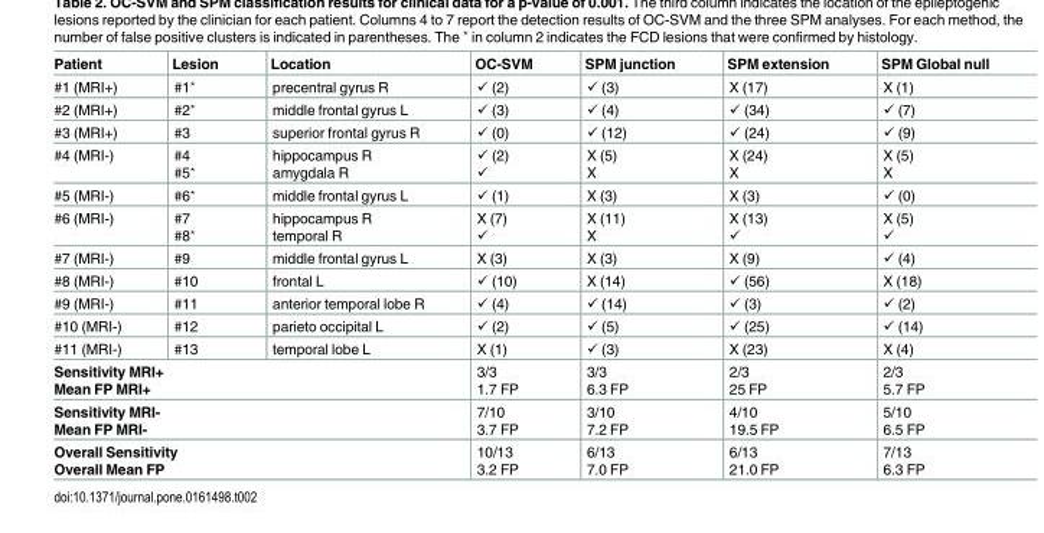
<table><thead><tr><td>Patient</td><td>Lesion</td><td>Location</td><td>OC-SVM</td><td>SPM junction</td><td>SPM extension</td><td>SPM Global null</td></tr></thead><tbody><tr><td>#1 (MRI+)</td><td>#1<sup>⋆</sup></td><td>precentral gyrus R</td><td>✓ (2)</td><td>✓ (3)</td><td>X (17)</td><td>X (1)</td></tr><tr><td>#2 (MRI+)</td><td>#2<sup>⋆</sup></td><td>middle frontal gyrus L</td><td>✓ (3)</td><td>✓ (4)</td><td>✓ (34)</td><td>✓ (7)</td></tr><tr><td>#3 (MRI+)</td><td>#3</td><td>superior frontal gyrus R</td><td>✓ (0)</td><td>✓ (12)</td><td>✓ (24)</td><td>✓ (9)</td></tr><tr><td>#4 (MRI-)</td><td>#4 #5<sup>⋆</sup></td><td>hippocampus R amygdala R</td><td>✓ (2) ✓</td><td>X (5) X</td><td>X (24) X</td><td>X (5) X</td></tr><tr><td>#5 (MRI-)</td><td>#6<sup>⋆</sup></td><td>middle frontal gyrus L</td><td>✓ (1)</td><td>X (3)</td><td>X (3)</td><td>✓ (0)</td></tr><tr><td>#6 (MRI-)</td><td>#7 #8<sup>⋆</sup></td><td>hippocampus R temporal R</td><td>X (7) ✓</td><td>X (11) X</td><td>X (13) ✓</td><td>X (5) ✓</td></tr><tr><td>#7 (MRI-)</td><td>#9</td><td>middle frontal gyrus L</td><td>X (3)</td><td>X (3)</td><td>X (9)</td><td>✓ (4)</td></tr><tr><td>#8 (MRI-)</td><td>#10</td><td>frontal L</td><td>✓ (10)</td><td>X (14)</td><td>✓ (56)</td><td>X (18)</td></tr><tr><td>#9 (MRI-)</td><td>#11</td><td>anterior temporal lobe R</td><td>✓ (4)</td><td>✓ (14)</td><td>✓ (3)</td><td>✓ (2)</td></tr><tr><td>#10 (MRI-)</td><td>#12</td><td>parieto occipital L</td><td>✓ (2)</td><td>✓ (5)</td><td>✓ (25)</td><td>✓ (14)</td></tr><tr><td>#11 (MRI-)</td><td>#13</td><td>temporal lobe L</td><td>X (1)</td><td>✓ (3)</td><td>X (23)</td><td>X (4)</td></tr><tr><td colspan="3">Sensitivity MRI+ Mean FP MRI+</td><td>3/3 1.7 FP</td><td>3/3 6.3 FP</td><td>2/3 25 FP</td><td>2/3 5.7 FP</td></tr><tr><td colspan="3">Sensitivity MRI- Mean FP MRI-</td><td>7/10 3.7 FP</td><td>3/10 7.2 FP</td><td>4/10 19.5 FP</td><td>5/10 6.5 FP</td></tr><tr><td colspan="3">Overall Sensitivity Overall Mean FP</td><td>10/13 3.2 FP</td><td>6/13 7.0 FP</td><td>6/13 21.0 FP</td><td>7/13 6.3 FP</td></tr></tbody></table>